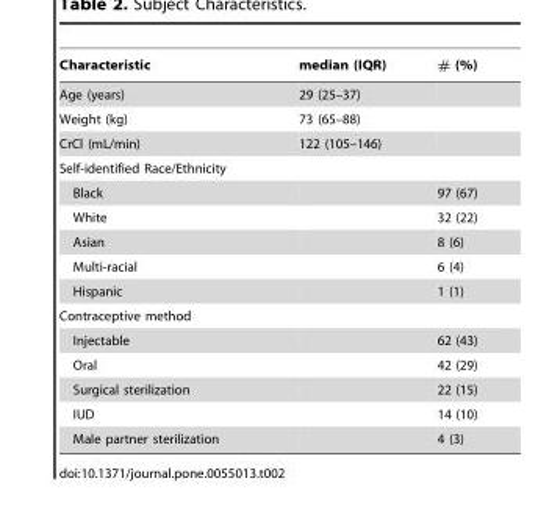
<table><thead><tr><td>Characteristic</td><td>median (IQR)</td><td># (%)</td></tr></thead><tbody><tr><td>Age (years)</td><td>29 (25–37)</td><td></td></tr><tr><td>Weight (kg)</td><td>73 (65–88)</td><td></td></tr><tr><td>CrCl (mL/min)</td><td>122 (105–146)</td><td></td></tr><tr><td colspan="3">Self-identified Race/Ethnicity</td></tr><tr><td>Black</td><td></td><td>97 (67)</td></tr><tr><td>White</td><td></td><td>32 (22)</td></tr><tr><td>Asian</td><td></td><td>8 (6)</td></tr><tr><td>Multi-racial</td><td></td><td>6 (4)</td></tr><tr><td>Hispanic</td><td></td><td>1 (1)</td></tr><tr><td colspan="3">Contraceptive method</td></tr><tr><td>Injectable</td><td></td><td>62 (43)</td></tr><tr><td>Oral</td><td></td><td>42 (29)</td></tr><tr><td>Surgical sterilization</td><td></td><td>22 (15)</td></tr><tr><td>IUD</td><td></td><td>14 (10)</td></tr><tr><td>Male partner sterilization</td><td></td><td>4 (3)</td></tr></tbody></table>